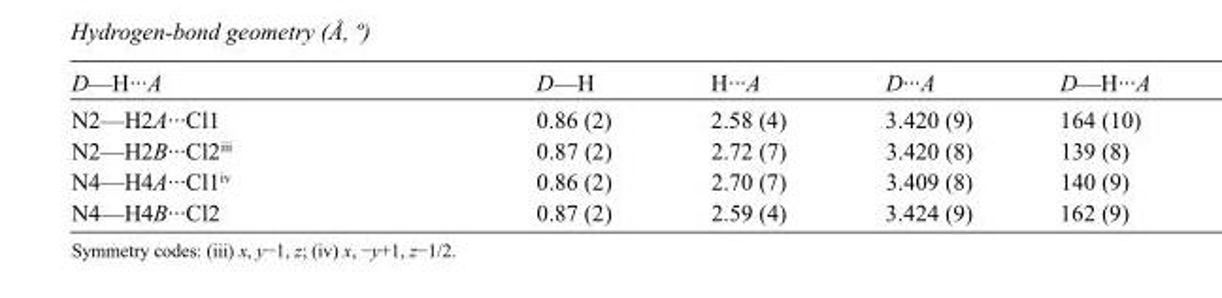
<table><tbody><tr><td>D—H···A</td><td>D—H</td><td>H···A</td><td>D···A</td><td>D—H···A</td></tr><tr><td>N2—H2A···Cl1</td><td>0.86 (2)</td><td>2.58 (4)</td><td>3.420 (9)</td><td>164 (10)</td></tr><tr><td>N2—H2B···Cl2<sup>iii</sup></td><td>0.87 (2)</td><td>2.72 (7)</td><td>3.420 (8)</td><td>139 (8)</td></tr><tr><td>N4—H4A···Cl1<sup>iv</sup></td><td>0.86 (2)</td><td>2.70 (7)</td><td>3.409 (8)</td><td>140 (9)</td></tr><tr><td>N4—H4B···Cl2</td><td>0.87 (2)</td><td>2.59 (4)</td><td>3.424 (9)</td><td>162 (9)</td></tr></tbody></table>